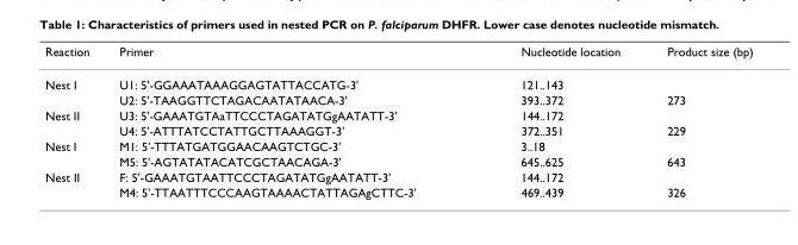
<table><thead><tr><td>Reaction</td><td>Primer</td><td>Nucleotide location</td><td>Product size (bp)</td></tr></thead><tbody><tr><td rowspan="2">Nest I</td><td>U1: 5&#x27;-GGAAATAAAGGAGTATTACCATG-3&#x27;</td><td>121..143</td><td></td></tr><tr><td>U2: 5&#x27;-TAAGGTTCTAGACAATATAACA-3&#x27;</td><td>393..372</td><td>273</td></tr><tr><td rowspan="2">Nest II</td><td>U3: 5&#x27;-GAAATGTAaTTCCCTAGATATGgAATATT-3&#x27;</td><td>144..172</td><td></td></tr><tr><td>U4: 5&#x27;-ATTTATCCTATTGCTTAAAGGT-3&#x27;</td><td>372..351</td><td>229</td></tr><tr><td rowspan="2">Nest I</td><td>M1: 5&#x27;-TTTATGATGGAACAAGTCTGC-3&#x27;</td><td>3..18</td><td></td></tr><tr><td>M5: 5&#x27;-AGTATATACATCGCTAACAGA-3&#x27;</td><td>645..625</td><td>643</td></tr><tr><td rowspan="2">Nest II</td><td>F: 5&#x27;-GAAATGTAATTCCCTAGATATGgAATATT-3&#x27;</td><td>144..172</td><td></td></tr><tr><td>M4: 5&#x27;-TTAATTTCCCAAGTAAAACTATTAGAgCTTC-3&#x27;</td><td>469..439</td><td>326</td></tr></tbody></table>